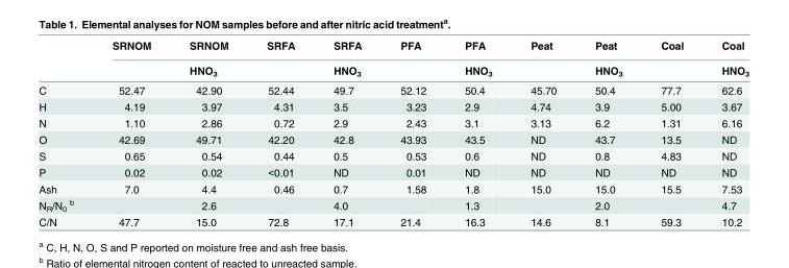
<table><thead><tr><td rowspan="2"></td><td rowspan="2">SRNOM</td><td rowspan="2">SRNOM HNO<sub>3</sub></td><td rowspan="2">SRFA</td><td rowspan="2">SRFA HNO<sub>3</sub></td><td rowspan="2">PFA</td><td rowspan="2">PFA HNO<sub>3</sub></td><td rowspan="2">Peat</td><td rowspan="2">Peat HNO<sub>3</sub></td><td rowspan="2">Coal</td><td rowspan="2">Coal HNO<sub>3</sub></td></tr><tr></tr></thead><tbody><tr><td>C</td><td>52.47</td><td>42.90</td><td>52.44</td><td>49.7</td><td>52.12</td><td>50.4</td><td>45.70</td><td>50.4</td><td>77.7</td><td>62.6</td></tr><tr><td>H</td><td>4.19</td><td>3.97</td><td>4.31</td><td>3.5</td><td>3.23</td><td>2.9</td><td>4.74</td><td>3.9</td><td>5.00</td><td>3.67</td></tr><tr><td>N</td><td>1.10</td><td>2.86</td><td>0.72</td><td>2.9</td><td>2.43</td><td>3.1</td><td>3.13</td><td>6.2</td><td>1.31</td><td>6.16</td></tr><tr><td>O</td><td>42.69</td><td>49.71</td><td>42.20</td><td>42.8</td><td>43.93</td><td>43.5</td><td>ND</td><td>43.7</td><td>13.5</td><td>ND</td></tr><tr><td>S</td><td>0.65</td><td>0.54</td><td>0.44</td><td>0.5</td><td>0.53</td><td>0.6</td><td>ND</td><td>0.8</td><td>4.83</td><td>ND</td></tr><tr><td>P</td><td>0.02</td><td>0.02</td><td>&lt;0.01</td><td>ND</td><td>0.01</td><td>ND</td><td>ND</td><td>ND</td><td>ND</td><td>ND</td></tr><tr><td>Ash</td><td>7.0</td><td>4.4</td><td>0.46</td><td>0.7</td><td>1.58</td><td>1.8</td><td>15.0</td><td>15.0</td><td>15.5</td><td>7.53</td></tr><tr><td>N<sub>R</sub>/N<sub>0</sub> <sup>b</sup></td><td></td><td>2.6</td><td></td><td>4.0</td><td></td><td>1.3</td><td></td><td>2.0</td><td></td><td>4.7</td></tr><tr><td>C/N</td><td>47.7</td><td>15.0</td><td>72.8</td><td>17.1</td><td>21.4</td><td>16.3</td><td>14.6</td><td>8.1</td><td>59.3</td><td>10.2</td></tr></tbody></table>